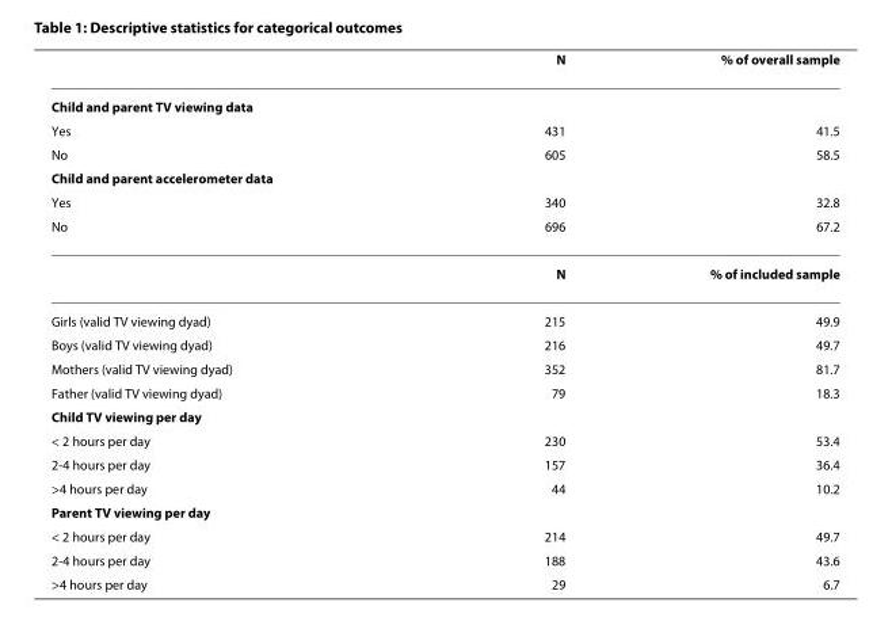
<table><thead><tr><td></td><td>N</td><td>% of overall sample</td></tr></thead><tbody><tr><td colspan="3">Child and parent TV viewing data</td></tr><tr><td>Yes</td><td>431</td><td>41.5</td></tr><tr><td>No</td><td>605</td><td>58.5</td></tr><tr><td colspan="3">Child and parent accelerometer data</td></tr><tr><td>Yes</td><td>340</td><td>32.8</td></tr><tr><td rowspan="2">No</td><td>696</td><td>67.2</td></tr><tr><td>N</td><td>% of included sample</td></tr><tr><td>Girls (valid TV viewing dyad)</td><td>215</td><td>49.9</td></tr><tr><td>Boys (valid TV viewing dyad)</td><td>216</td><td>49.7</td></tr><tr><td>Mothers (valid TV viewing dyad)</td><td>352</td><td>81.7</td></tr><tr><td>Father (valid TV viewing dyad)</td><td>79</td><td>18.3</td></tr><tr><td colspan="3">Child TV viewing per day</td></tr><tr><td>&lt; 2 hours per day</td><td>230</td><td>53.4</td></tr><tr><td>2-4 hours per day</td><td>157</td><td>36.4</td></tr><tr><td>&gt;4 hours per day</td><td>44</td><td>10.2</td></tr><tr><td colspan="3">Parent TV viewing per day</td></tr><tr><td>&lt; 2 hours per day</td><td>214</td><td>49.7</td></tr><tr><td>2-4 hours per day</td><td>188</td><td>43.6</td></tr><tr><td>&gt;4 hours per day</td><td>29</td><td>6.7</td></tr></tbody></table>